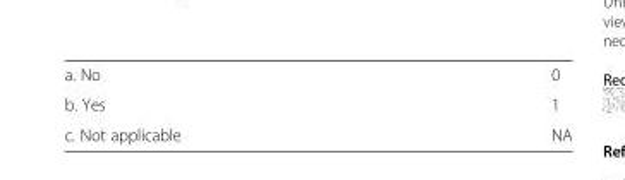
<table><tbody><tr><td>a. No</td><td>0</td></tr><tr><td>b. Yes</td><td>1</td></tr></tbody></table>